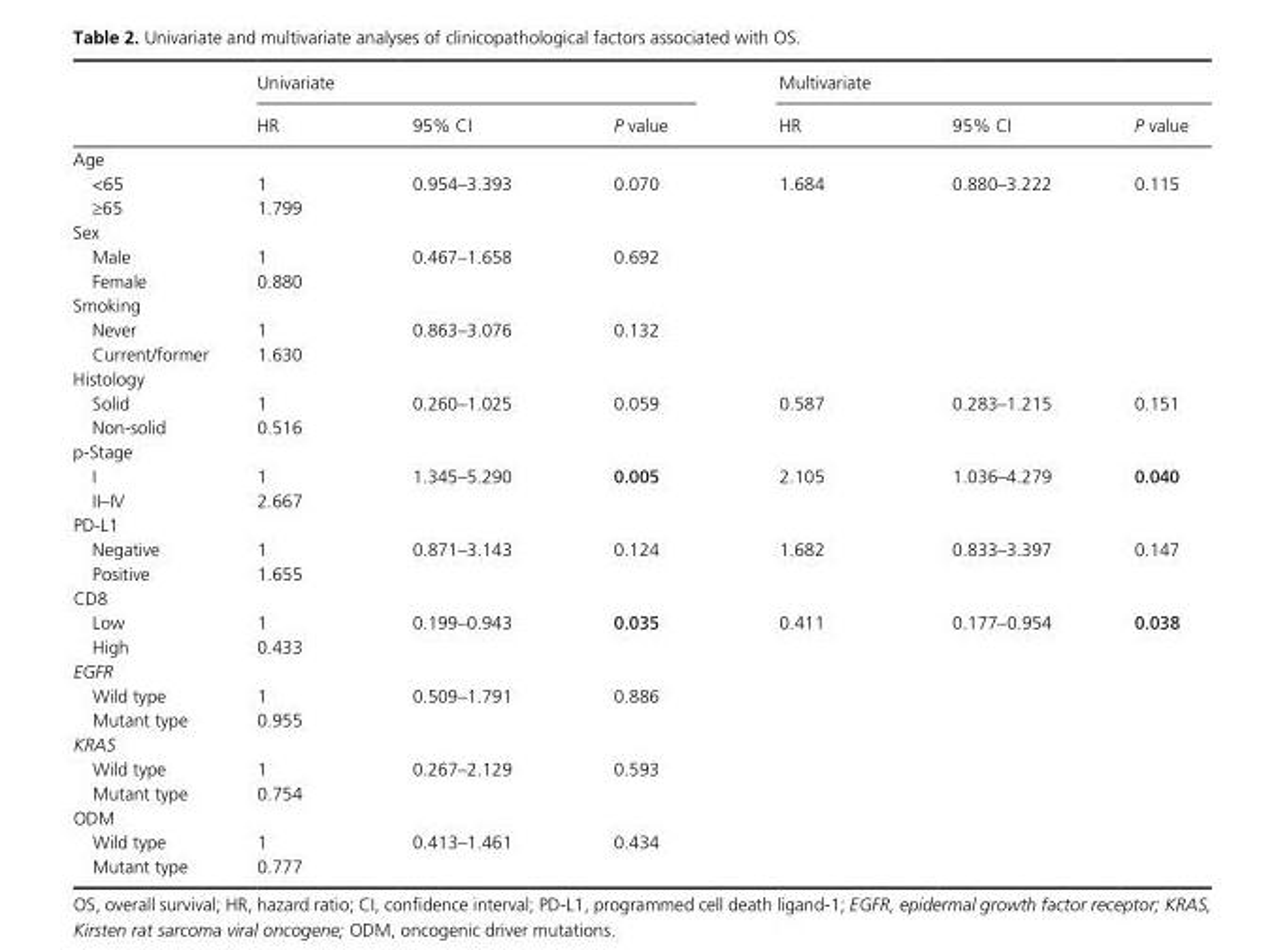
<table><thead><tr><td rowspan="2"></td><td colspan="3">Univariate</td><td colspan="3">Multivariate</td></tr><tr><td>HR</td><td>95% CI</td><td>P value</td><td>HR</td><td>95% CI</td><td>P value</td></tr></thead><tbody><tr><td colspan="7">Age</td></tr><tr><td>&lt;65</td><td>1</td><td>0.954–3.393</td><td>0.070</td><td>1.684</td><td>0.880–3.222</td><td>0.115</td></tr><tr><td>≥65</td><td>1.799</td><td></td><td></td><td></td><td></td><td></td></tr><tr><td colspan="7">Sex</td></tr><tr><td>Male</td><td>1</td><td>0.467–1.658</td><td>0.692</td><td></td><td></td><td></td></tr><tr><td>Female</td><td>0.880</td><td></td><td></td><td></td><td></td><td></td></tr><tr><td colspan="7">Smoking</td></tr><tr><td>Never</td><td>1</td><td>0.863–3.076</td><td>0.132</td><td></td><td></td><td></td></tr><tr><td>Current/former</td><td>1.630</td><td></td><td></td><td></td><td></td><td></td></tr><tr><td colspan="7">Histology</td></tr><tr><td>Solid</td><td>1</td><td>0.260–1.025</td><td>0.059</td><td>0.587</td><td>0.283–1.215</td><td>0.151</td></tr><tr><td>Non- solid</td><td>0.516</td><td></td><td></td><td></td><td></td><td></td></tr><tr><td colspan="7">p- Stage</td></tr><tr><td>I</td><td>1</td><td>1.345–5.290</td><td>0.005</td><td>2.105</td><td>1.036–4.279</td><td>0.040</td></tr><tr><td>II–IV</td><td>2.667</td><td></td><td></td><td></td><td></td><td></td></tr><tr><td colspan="7">PD- L1</td></tr><tr><td>Negative</td><td>1</td><td>0.871–3.143</td><td>0.124</td><td>1.682</td><td>0.833–3.397</td><td>0.147</td></tr><tr><td>Positive</td><td>1.655</td><td></td><td></td><td></td><td></td><td></td></tr><tr><td colspan="7">CD8</td></tr><tr><td>Low</td><td>1</td><td>0.199–0.943</td><td>0.035</td><td>0.411</td><td>0.177–0.954</td><td>0.038</td></tr><tr><td>High</td><td>0.433</td><td></td><td></td><td></td><td></td><td></td></tr><tr><td colspan="7">EGFR</td></tr><tr><td>Wild type</td><td>1</td><td>0.509–1.791</td><td>0.886</td><td></td><td></td><td></td></tr><tr><td>Mutant type</td><td>0.955</td><td></td><td></td><td></td><td></td><td></td></tr><tr><td colspan="7">KRAS</td></tr><tr><td>Wild type</td><td>1</td><td>0.267–2.129</td><td>0.593</td><td></td><td></td><td></td></tr><tr><td>Mutant type</td><td>0.754</td><td></td><td></td><td></td><td></td><td></td></tr><tr><td colspan="7">ODM</td></tr><tr><td>Wild type</td><td>1</td><td>0.413–1.461</td><td>0.434</td><td></td><td></td><td></td></tr><tr><td>Mutant type</td><td>0.777</td><td></td><td></td><td></td><td></td><td></td></tr></tbody></table>